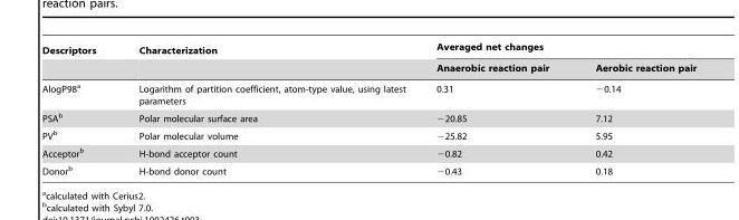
<table><thead><tr><td rowspan="2">Descriptors</td><td rowspan="2">Characterization</td><td colspan="2">Averaged net changes</td></tr><tr><td>Anaerobic reaction pair</td><td>Aerobic reaction pair</td></tr></thead><tbody><tr><td>AlogP98<sup>a</sup></td><td>Logarithm of partition coefficient, atom-type value, using latest parameters</td><td>0.31</td><td>−0.14</td></tr><tr><td>PSA<sup>b</sup></td><td>Polar molecular surface area</td><td>−20.85</td><td>7.12</td></tr><tr><td>PV<sup>b</sup></td><td>Polar molecular volume</td><td>−25.82</td><td>5.95</td></tr><tr><td>Acceptor<sup>b</sup></td><td>H-bond acceptor count</td><td>−0.82</td><td>0.42</td></tr><tr><td>Donor<sup>b</sup></td><td>H-bond donor count</td><td>−0.43</td><td>0.18</td></tr></tbody></table>